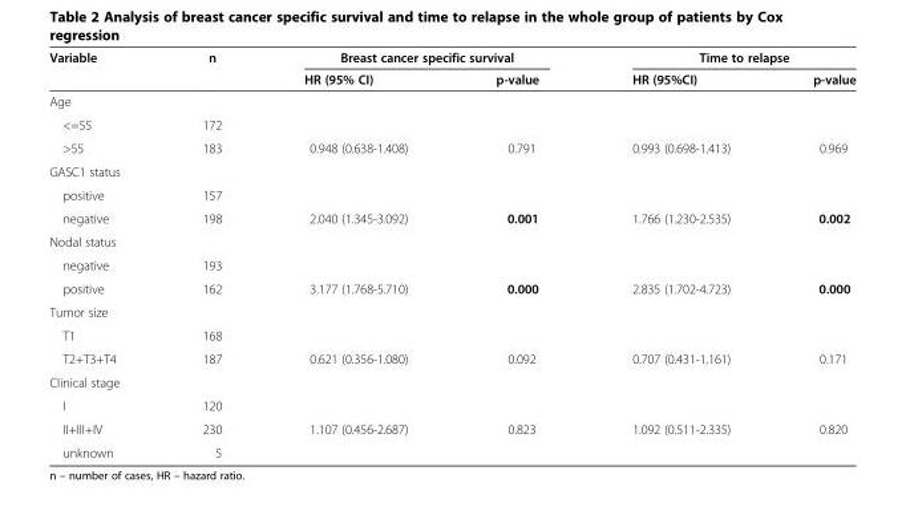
<table><thead><tr><td rowspan="2">Variable</td><td rowspan="2">n</td><td colspan="2">Breast cancer specific survival</td><td colspan="2">Time to relapse</td></tr><tr><td>HR (95% CI)</td><td>p-value</td><td>HR (95%CI)</td><td>p-value</td></tr></thead><tbody><tr><td colspan="6">Age</td></tr><tr><td>&lt;=55</td><td>172</td><td></td><td></td><td></td><td></td></tr><tr><td>&gt;55</td><td>183</td><td>0.948 (0.638-1.408)</td><td>0.791</td><td>0.993 (0.698-1.413)</td><td>0.969</td></tr><tr><td colspan="6">GASC1 status</td></tr><tr><td>positive</td><td>157</td><td></td><td></td><td></td><td></td></tr><tr><td>negative</td><td>198</td><td>2.040 (1.345-3.092)</td><td>0.001</td><td>1.766 (1.230-2.535)</td><td>0.002</td></tr><tr><td colspan="6">Nodal status</td></tr><tr><td>negative</td><td>193</td><td></td><td></td><td></td><td></td></tr><tr><td>positive</td><td>162</td><td>3.177 (1.768-5.710)</td><td>0.000</td><td>2.835 (1.702-4.723)</td><td>0.000</td></tr><tr><td colspan="6">Tumor size</td></tr><tr><td>T1</td><td>168</td><td></td><td></td><td></td><td></td></tr><tr><td>T2+T3+T4</td><td>187</td><td>0.621 (0.356-1.080)</td><td>0.092</td><td>0.707 (0.431-1.161)</td><td>0.171</td></tr><tr><td colspan="6">Clinical stage</td></tr><tr><td>I</td><td>120</td><td></td><td></td><td></td><td></td></tr><tr><td>II+III+IV</td><td>230</td><td>1.107 (0.456-2.687)</td><td>0.823</td><td>1.092 (0.511-2.335)</td><td>0.820</td></tr><tr><td>unknown</td><td>5</td><td></td><td></td><td></td><td></td></tr></tbody></table>